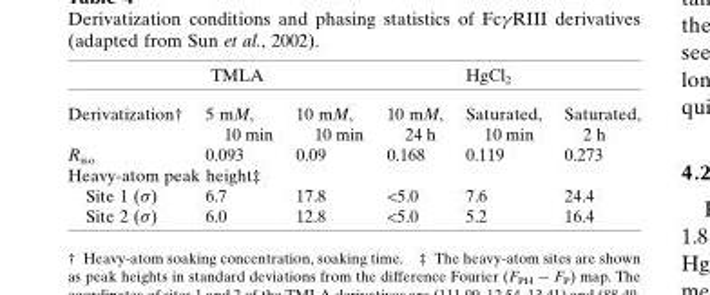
<table><thead><tr><td rowspan="2">Derivatization†</td><td colspan="3">TMLA</td><td colspan="2">HgCl<sub>2</sub></td></tr><tr><td>5 mM, 10 min</td><td>10 mM, 10 min</td><td>10 mM, 24 h</td><td>Saturated, 10 min</td><td>Saturated, 2 h</td></tr></thead><tbody><tr><td>R<sub>iso</sub></td><td>0.093</td><td>0.09</td><td>0.168</td><td>0.119</td><td>0.273</td></tr><tr><td colspan="6">Heavy-atom peak height‡</td></tr><tr><td>Site 1 (�)</td><td>6.7</td><td>17.8</td><td>&lt;5.0</td><td>7.6</td><td>24.4</td></tr><tr><td>Site 2 (�)</td><td>6.0</td><td>12.8</td><td>&lt;5.0</td><td>5.2</td><td>16.4</td></tr></tbody></table>